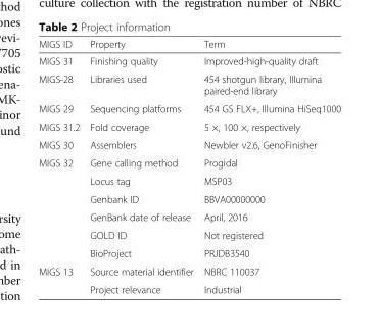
<table><thead><tr><td>MIGS ID</td><td>Property</td><td>Term</td></tr></thead><tbody><tr><td>MIGS 31</td><td>Finishing quality</td><td>Improved-high-quality draft</td></tr><tr><td>MIGS-28</td><td>Libraries used</td><td>454 shotgun library, Illumina paired-end library</td></tr><tr><td>MIGS 29</td><td>Sequencing platforms</td><td>454 GS FLX+, Illumina HiSeq1000</td></tr><tr><td>MIGS 31.2</td><td>Fold coverage</td><td>5 ×, 100 ×, respectively</td></tr><tr><td>MIGS 30</td><td>Assemblers</td><td>Newbler v2.6, GenoFinisher</td></tr><tr><td rowspan="6">MIGS 32</td><td>Gene calling method</td><td>Progidal</td></tr><tr><td>Locus tag</td><td>MSP03</td></tr><tr><td>Genbank ID</td><td>BBVA00000000</td></tr><tr><td>GenBank date of release</td><td>April, 2016</td></tr><tr><td>GOLD ID</td><td>Not registered</td></tr><tr><td>BioProject</td><td>PRJDB3540</td></tr><tr><td rowspan="2">MIGS 13</td><td>Source material identifier</td><td>NBRC 110037</td></tr><tr><td>Project relevance</td><td>Industrial</td></tr></tbody></table>